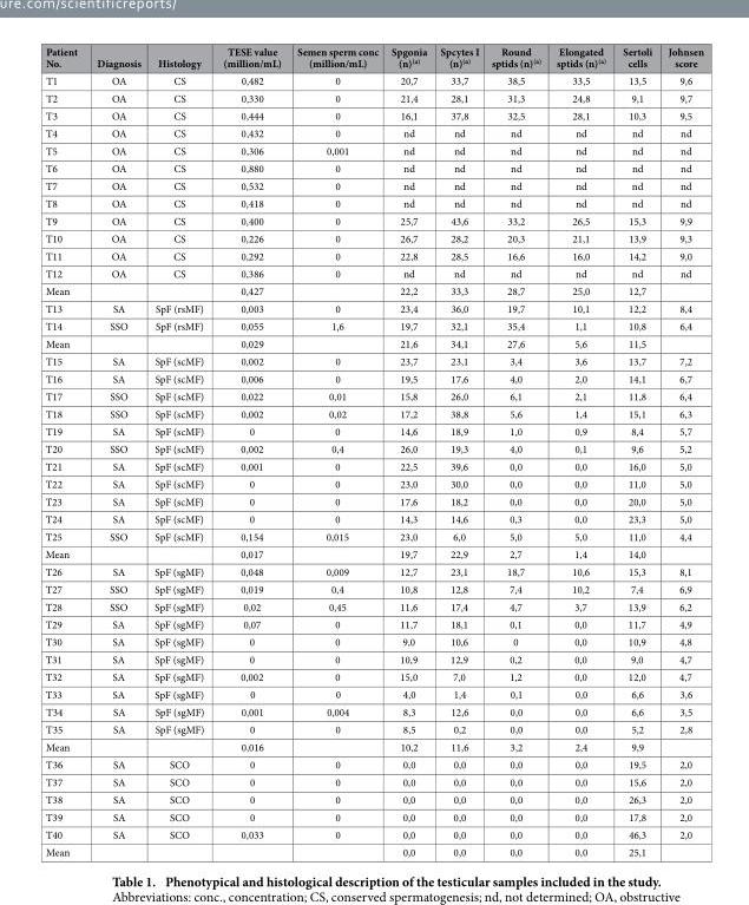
<table><thead><tr><td>Patient No.</td><td>Diagnosis</td><td>Histology</td><td>TESE value (million/mL)</td><td>Semen sperm conc (million/mL)</td><td>Spgonia (n)<sup>(a)</sup></td><td>Spcytes I (n)<sup>(a)</sup></td><td>Round sptids (n)<sup>(a)</sup></td><td>Elongated sptids (n)<sup>(a)</sup></td><td>Sertoli cells</td><td>Johnsen score</td></tr></thead><tbody><tr><td>T1</td><td>OA</td><td>CS</td><td>0,482</td><td>0</td><td>20,7</td><td>33,7</td><td>38,5</td><td>33,5</td><td>13,5</td><td>9,6</td></tr><tr><td>T2</td><td>OA</td><td>CS</td><td>0,330</td><td>0</td><td>21,4</td><td>28,1</td><td>31,3</td><td>24,8</td><td>9,1</td><td>9,7</td></tr><tr><td>T3</td><td>OA</td><td>CS</td><td>0,444</td><td>0</td><td>16,1</td><td>37,8</td><td>32,5</td><td>28,1</td><td>10,3</td><td>9,5</td></tr><tr><td>T4</td><td>OA</td><td>CS</td><td>0,432</td><td>0</td><td>nd</td><td>nd</td><td>nd</td><td>nd</td><td>nd</td><td>nd</td></tr><tr><td>T5</td><td>OA</td><td>CS</td><td>0,306</td><td>0,001</td><td>nd</td><td>nd</td><td>nd</td><td>nd</td><td>nd</td><td>nd</td></tr><tr><td>T6</td><td>OA</td><td>CS</td><td>0,880</td><td>0</td><td>nd</td><td>nd</td><td>nd</td><td>nd</td><td>nd</td><td>nd</td></tr><tr><td>T7</td><td>OA</td><td>CS</td><td>0,532</td><td>0</td><td>nd</td><td>nd</td><td>nd</td><td>nd</td><td>nd</td><td>nd</td></tr><tr><td>T8</td><td>OA</td><td>CS</td><td>0,418</td><td>0</td><td>nd</td><td>nd</td><td>nd</td><td>nd</td><td>nd</td><td>nd</td></tr><tr><td>T9</td><td>OA</td><td>CS</td><td>0,400</td><td>0</td><td>25,7</td><td>43,6</td><td>33,2</td><td>26,5</td><td>15,3</td><td>9,9</td></tr><tr><td>T10</td><td>OA</td><td>CS</td><td>0,226</td><td>0</td><td>26,7</td><td>28,2</td><td>20,3</td><td>21,1</td><td>13,9</td><td>9,3</td></tr><tr><td>T11</td><td>OA</td><td>CS</td><td>0,292</td><td>0</td><td>22,8</td><td>28,5</td><td>16,6</td><td>16,0</td><td>14,2</td><td>9,0</td></tr><tr><td>T12</td><td>OA</td><td>CS</td><td>0,386</td><td>0</td><td>nd</td><td>nd</td><td>nd</td><td>nd</td><td>nd</td><td>nd</td></tr><tr><td>Mean</td><td></td><td></td><td>0,427</td><td></td><td>22,2</td><td>33,3</td><td>28,7</td><td>25,0</td><td>12,7</td><td></td></tr><tr><td>T13</td><td>SA</td><td>SpF (rsMF)</td><td>0,003</td><td>0</td><td>23,4</td><td>36,0</td><td>19,7</td><td>10,1</td><td>12,2</td><td>8,4</td></tr><tr><td>T14</td><td>SSO</td><td>SpF (rsMF)</td><td>0,055</td><td>1,6</td><td>19,7</td><td>32,1</td><td>35,4</td><td>1,1</td><td>10,8</td><td>6,4</td></tr><tr><td>Mean</td><td></td><td></td><td>0,029</td><td></td><td>21,6</td><td>34,1</td><td>27,6</td><td>5,6</td><td>11,5</td><td></td></tr><tr><td>T15</td><td>SA</td><td>SpF (scMF)</td><td>0,002</td><td>0</td><td>23,7</td><td>23,1</td><td>3,4</td><td>3,6</td><td>13,7</td><td>7,2</td></tr><tr><td>T16</td><td>SA</td><td>SpF (scMF)</td><td>0,006</td><td>0</td><td>19,5</td><td>17,6</td><td>4,0</td><td>2,0</td><td>14,1</td><td>6,7</td></tr><tr><td>T17</td><td>SSO</td><td>SpF (scMF)</td><td>0,022</td><td>0,01</td><td>15,8</td><td>26,0</td><td>6,1</td><td>2,1</td><td>11,8</td><td>6,4</td></tr><tr><td>T18</td><td>SSO</td><td>SpF (scMF)</td><td>0,002</td><td>0,02</td><td>17,2</td><td>38,8</td><td>5,6</td><td>1,4</td><td>15,1</td><td>6,3</td></tr><tr><td>T19</td><td>SA</td><td>SpF (scMF)</td><td>0</td><td>0</td><td>14,6</td><td>18,9</td><td>1,0</td><td>0,9</td><td>8,4</td><td>5,7</td></tr><tr><td>T20</td><td>SSO</td><td>SpF (scMF)</td><td>0,002</td><td>0,4</td><td>26,0</td><td>19,3</td><td>4,0</td><td>0,1</td><td>9,6</td><td>5,2</td></tr><tr><td>T21</td><td>SA</td><td>SpF (scMF)</td><td>0,001</td><td>0</td><td>22,5</td><td>39,6</td><td>0,0</td><td>0,0</td><td>16,0</td><td>5,0</td></tr><tr><td>T22</td><td>SA</td><td>SpF (scMF)</td><td>0</td><td>0</td><td>23,0</td><td>30,0</td><td>0,0</td><td>0,0</td><td>11,0</td><td>5,0</td></tr><tr><td>T23</td><td>SA</td><td>SpF (scMF)</td><td>0</td><td>0</td><td>17,6</td><td>18,2</td><td>0,0</td><td>0,0</td><td>20,0</td><td>5,0</td></tr><tr><td>T24</td><td>SA</td><td>SpF (scMF)</td><td>0</td><td>0</td><td>14,3</td><td>14,6</td><td>0,3</td><td>0,0</td><td>23,3</td><td>5,0</td></tr><tr><td>T25</td><td>SSO</td><td>SpF (scMF)</td><td>0,154</td><td>0,015</td><td>23,0</td><td>6,0</td><td>5,0</td><td>5,0</td><td>11,0</td><td>4,4</td></tr><tr><td>Mean</td><td></td><td></td><td>0,017</td><td></td><td>19,7</td><td>22,9</td><td>2,7</td><td>1,4</td><td>14,0</td><td></td></tr><tr><td>T26</td><td>SA</td><td>SpF (sgMF)</td><td>0,048</td><td>0,009</td><td>12,7</td><td>23,1</td><td>18,7</td><td>10,6</td><td>15,3</td><td>8,1</td></tr><tr><td>T27</td><td>SSO</td><td>SpF (sgMF)</td><td>0,019</td><td>0,4</td><td>10,8</td><td>12,8</td><td>7,4</td><td>10,2</td><td>7,4</td><td>6,9</td></tr><tr><td>T28</td><td>SSO</td><td>SpF (sgMF)</td><td>0,02</td><td>0,45</td><td>11,6</td><td>17,4</td><td>4,7</td><td>3,7</td><td>13,9</td><td>6,2</td></tr><tr><td>T29</td><td>SA</td><td>SpF (sgMF)</td><td>0,07</td><td>0</td><td>11,7</td><td>18,1</td><td>0,1</td><td>0,0</td><td>11,7</td><td>4,9</td></tr><tr><td>T30</td><td>SA</td><td>SpF (sgMF)</td><td>0</td><td>0</td><td>9,0</td><td>10,6</td><td>0</td><td>0,0</td><td>10,9</td><td>4,8</td></tr><tr><td>T31</td><td>SA</td><td>SpF (sgMF)</td><td>0</td><td>0</td><td>10,9</td><td>12,9</td><td>0,2</td><td>0,0</td><td>9,0</td><td>4,7</td></tr><tr><td>T32</td><td>SA</td><td>SpF (sgMF)</td><td>0,002</td><td>0</td><td>15,0</td><td>7,0</td><td>1,2</td><td>0,0</td><td>12,0</td><td>4,7</td></tr><tr><td>T33</td><td>SA</td><td>SpF (sgMF)</td><td>0</td><td>0</td><td>4,0</td><td>1,4</td><td>0,1</td><td>0,0</td><td>6,6</td><td>3,6</td></tr><tr><td>T34</td><td>SA</td><td>SpF (sgMF)</td><td>0,001</td><td>0,004</td><td>8,3</td><td>12,6</td><td>0,0</td><td>0,0</td><td>6,6</td><td>3,5</td></tr><tr><td>T35</td><td>SA</td><td>SpF (sgMF)</td><td>0</td><td>0</td><td>8,5</td><td>0,2</td><td>0,0</td><td>0,0</td><td>5,2</td><td>2,8</td></tr><tr><td>Mean</td><td></td><td></td><td>0,016</td><td></td><td>10,2</td><td>11,6</td><td>3,2</td><td>2,4</td><td>9,9</td><td></td></tr><tr><td>T36</td><td>SA</td><td>SCO</td><td>0</td><td>0</td><td>0,0</td><td>0,0</td><td>0,0</td><td>0,0</td><td>19,5</td><td>2,0</td></tr><tr><td>T37</td><td>SA</td><td>SCO</td><td>0</td><td>0</td><td>0,0</td><td>0,0</td><td>0,0</td><td>0,0</td><td>15,6</td><td>2,0</td></tr><tr><td>T38</td><td>SA</td><td>SCO</td><td>0</td><td>0</td><td>0,0</td><td>0,0</td><td>0,0</td><td>0,0</td><td>26,3</td><td>2,0</td></tr><tr><td>T39</td><td>SA</td><td>SCO</td><td>0</td><td>0</td><td>0,0</td><td>0,0</td><td>0,0</td><td>0,0</td><td>17,8</td><td>2,0</td></tr><tr><td>T40</td><td>SA</td><td>SCO</td><td>0,033</td><td>0</td><td>0,0</td><td>0,0</td><td>0,0</td><td>0,0</td><td>46,3</td><td>2,0</td></tr><tr><td>Mean</td><td></td><td></td><td></td><td></td><td>0,0</td><td>0,0</td><td>0,0</td><td>0,0</td><td>25,1</td><td></td></tr></tbody></table>